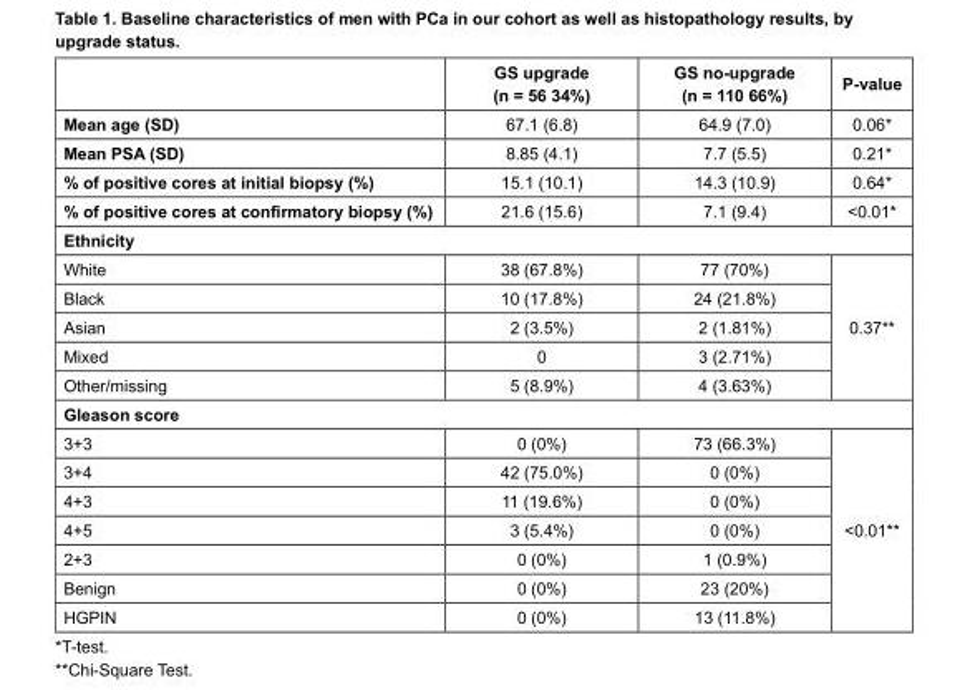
<table><thead><tr><td></td><td>GS upgrade (n = 56 34%)</td><td>GS no-upgrade (n = 110 66%)</td><td>P-value</td></tr></thead><tbody><tr><td>Mean age (SD)</td><td>67.1 (6.8)</td><td>64.9 (7.0)</td><td>0.06*</td></tr><tr><td>Mean PSA (SD)</td><td>8.85 (4.1)</td><td>7.7 (5.5)</td><td>0.21*</td></tr><tr><td>% of positive cores at initial biopsy (%)</td><td>15.1 (10.1)</td><td>14.3 (10.9)</td><td>0.64*</td></tr><tr><td>% of positive cores at confirmatory biopsy (%)</td><td>21.6 (15.6)</td><td>7.1 (9.4)</td><td>&lt;0.01*</td></tr><tr><td colspan="4">Ethnicity</td></tr><tr><td>White</td><td>38 (67.8%)</td><td>77 (70%)</td><td rowspan="5">0.37**</td></tr><tr><td>Black</td><td>10 (17.8%)</td><td>24 (21.8%)</td></tr><tr><td>Asian</td><td>2 (3.5%)</td><td>2 (1.81%)</td></tr><tr><td>Mixed</td><td>0</td><td>3 (2.71%)</td></tr><tr><td>Other/missing</td><td>5 (8.9%)</td><td>4 (3.63%)</td></tr><tr><td colspan="4">Gleason score</td></tr><tr><td>3+3</td><td>0 (0%)</td><td>73 (66.3%)</td><td rowspan="7">&lt;0.01**</td></tr><tr><td>3+4</td><td>42 (75.0%)</td><td>0 (0%)</td></tr><tr><td>4+3</td><td>11 (19.6%)</td><td>0 (0%)</td></tr><tr><td>4+5</td><td>3 (5.4%)</td><td>0 (0%)</td></tr><tr><td>2+3</td><td>0 (0%)</td><td>1 (0.9%)</td></tr><tr><td>Benign</td><td>0 (0%)</td><td>23 (20%)</td></tr><tr><td>HGPIN</td><td>0 (0%)</td><td>13 (11.8%)</td></tr></tbody></table>